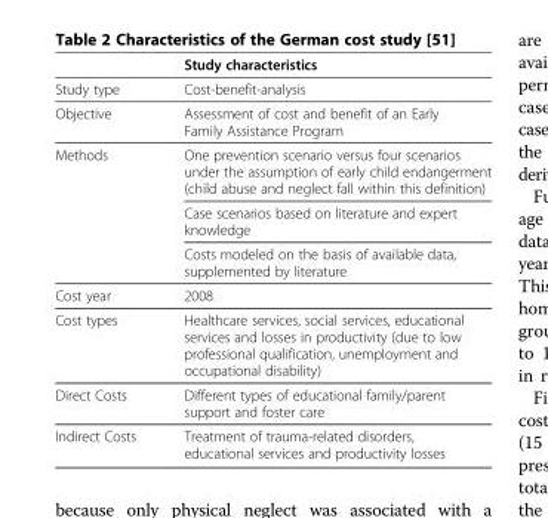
<table><thead><tr><td></td><td>Study characteristics</td></tr></thead><tbody><tr><td>Study type</td><td>Cost-benefit-analysis</td></tr><tr><td>Objective</td><td>Assessment of cost and benefit of an Early Family Assistance Program</td></tr><tr><td rowspan="3">Methods</td><td>One prevention scenario versus four scenarios under the assumption of early child endangerment (child abuse and neglect fall within this definition)</td></tr><tr><td>Case scenarios based on literature and expert knowledge</td></tr><tr><td>Costs modeled on the basis of available data, supplemented by literature</td></tr><tr><td>Cost year</td><td>2008</td></tr><tr><td>Cost types</td><td>Healthcare services, social services, educational services and losses in productivity (due to low professional qualification, unemployment and occupational disability)</td></tr><tr><td>Direct Costs</td><td>Different types of educational family/parent support and foster care</td></tr><tr><td>Indirect Costs</td><td>Treatment of trauma-related disorders, educational services and productivity losses</td></tr></tbody></table>